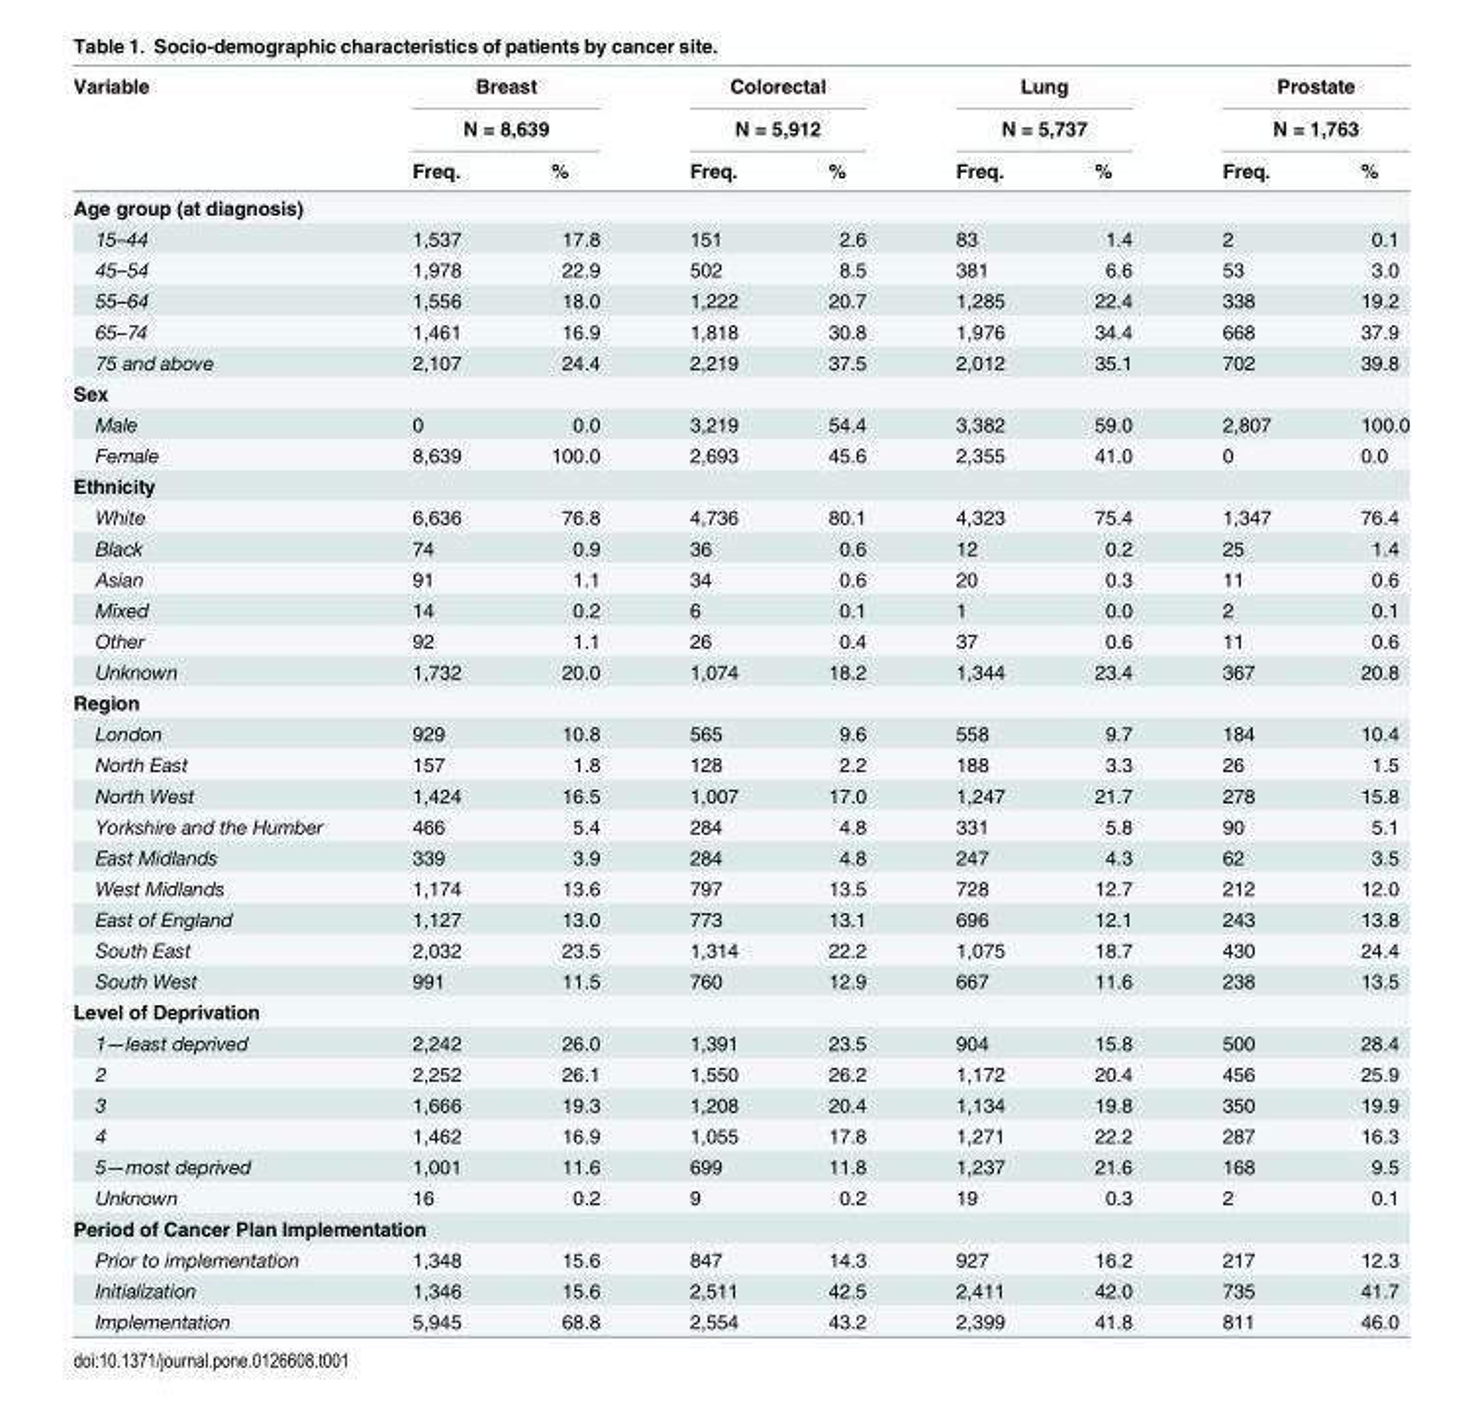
<table><thead><tr><td rowspan="3">Variable</td><td rowspan="2" colspan="2">Breast N = 8,639</td><td rowspan="2" colspan="2">Colorectal N = 5,912</td><td rowspan="2" colspan="2">Lung N = 5,737</td><td rowspan="2" colspan="2">Prostate N = 1,763</td></tr><tr></tr><tr><td>Freq.</td><td>%</td><td>Freq.</td><td>%</td><td>Freq.</td><td>%</td><td>Freq.</td><td>%</td></tr></thead><tbody><tr><td colspan="9">Age group (at diagnosis)</td></tr><tr><td>15–44</td><td>1,537</td><td>17.8</td><td>151</td><td>2.6</td><td>83</td><td>1.4</td><td>2</td><td>0.1</td></tr><tr><td>45–54</td><td>1,978</td><td>22.9</td><td>502</td><td>8.5</td><td>381</td><td>6.6</td><td>53</td><td>3.0</td></tr><tr><td>55–64</td><td>1,556</td><td>18.0</td><td>1,222</td><td>20.7</td><td>1,285</td><td>22.4</td><td>338</td><td>19.2</td></tr><tr><td>65–74</td><td>1,461</td><td>16.9</td><td>1,818</td><td>30.8</td><td>1,976</td><td>34.4</td><td>668</td><td>37.9</td></tr><tr><td>75 and above</td><td>2,107</td><td>24.4</td><td>2,219</td><td>37.5</td><td>2,012</td><td>35.1</td><td>702</td><td>39.8</td></tr><tr><td colspan="9">Sex</td></tr><tr><td>Male</td><td>0</td><td>0.0</td><td>3,219</td><td>54.4</td><td>3,382</td><td>59.0</td><td>2,807</td><td>100.0</td></tr><tr><td>Female</td><td>8,639</td><td>100.0</td><td>2,693</td><td>45.6</td><td>2,355</td><td>41.0</td><td>0</td><td>0.0</td></tr><tr><td colspan="9">Ethnicity</td></tr><tr><td>White</td><td>6,636</td><td>76.8</td><td>4,736</td><td>80.1</td><td>4,323</td><td>75.4</td><td>1,347</td><td>76.4</td></tr><tr><td>Black</td><td>74</td><td>0.9</td><td>36</td><td>0.6</td><td>12</td><td>0.2</td><td>25</td><td>1.4</td></tr><tr><td>Asian</td><td>91</td><td>1.1</td><td>34</td><td>0.6</td><td>20</td><td>0.3</td><td>11</td><td>0.6</td></tr><tr><td>Mixed</td><td>14</td><td>0.2</td><td>6</td><td>0.1</td><td>1</td><td>0.0</td><td>2</td><td>0.1</td></tr><tr><td>Other</td><td>92</td><td>1.1</td><td>26</td><td>0.4</td><td>37</td><td>0.6</td><td>11</td><td>0.6</td></tr><tr><td>Unknown</td><td>1,732</td><td>20.0</td><td>1,074</td><td>18.2</td><td>1,344</td><td>23.4</td><td>367</td><td>20.8</td></tr><tr><td colspan="9">Region</td></tr><tr><td>London</td><td>929</td><td>10.8</td><td>565</td><td>9.6</td><td>558</td><td>9.7</td><td>184</td><td>10.4</td></tr><tr><td>North East</td><td>157</td><td>1.8</td><td>128</td><td>2.2</td><td>188</td><td>3.3</td><td>26</td><td>1.5</td></tr><tr><td>North West</td><td>1,424</td><td>16.5</td><td>1,007</td><td>17.0</td><td>1,247</td><td>21.7</td><td>278</td><td>15.8</td></tr><tr><td>Yorkshire and the Humber</td><td>466</td><td>5.4</td><td>284</td><td>4.8</td><td>331</td><td>5.8</td><td>90</td><td>5.1</td></tr><tr><td>East Midlands</td><td>339</td><td>3.9</td><td>284</td><td>4.8</td><td>247</td><td>4.3</td><td>62</td><td>3.5</td></tr><tr><td>West Midlands</td><td>1,174</td><td>13.6</td><td>797</td><td>13.5</td><td>728</td><td>12.7</td><td>212</td><td>12.0</td></tr><tr><td>East of England</td><td>1,127</td><td>13.0</td><td>773</td><td>13.1</td><td>696</td><td>12.1</td><td>243</td><td>13.8</td></tr><tr><td>South East</td><td>2,032</td><td>23.5</td><td>1,314</td><td>22.2</td><td>1,075</td><td>18.7</td><td>430</td><td>24.4</td></tr><tr><td>South West</td><td>991</td><td>11.5</td><td>760</td><td>12.9</td><td>667</td><td>11.6</td><td>238</td><td>13.5</td></tr><tr><td colspan="9">Level of Deprivation</td></tr><tr><td>1—least deprived</td><td>2,242</td><td>26.0</td><td>1,391</td><td>23.5</td><td>904</td><td>15.8</td><td>500</td><td>28.4</td></tr><tr><td>2</td><td>2,252</td><td>26.1</td><td>1,550</td><td>26.2</td><td>1,172</td><td>20.4</td><td>456</td><td>25.9</td></tr><tr><td>3</td><td>1,666</td><td>19.3</td><td>1,208</td><td>20.4</td><td>1,134</td><td>19.8</td><td>350</td><td>19.9</td></tr><tr><td>4</td><td>1,462</td><td>16.9</td><td>1,055</td><td>17.8</td><td>1,271</td><td>22.2</td><td>287</td><td>16.3</td></tr><tr><td>5—most deprived</td><td>1,001</td><td>11.6</td><td>699</td><td>11.8</td><td>1,237</td><td>21.6</td><td>168</td><td>9.5</td></tr><tr><td>Unknown</td><td>16</td><td>0.2</td><td>9</td><td>0.2</td><td>19</td><td>0.3</td><td>2</td><td>0.1</td></tr><tr><td colspan="9">Period of Cancer Plan Implementation</td></tr><tr><td>Prior to implementation</td><td>1,348</td><td>15.6</td><td>847</td><td>14.3</td><td>927</td><td>16.2</td><td>217</td><td>12.3</td></tr><tr><td>Initialization</td><td>1,346</td><td>15.6</td><td>2,511</td><td>42.5</td><td>2,411</td><td>42.0</td><td>735</td><td>41.7</td></tr><tr><td>Implementation</td><td>5,945</td><td>68.8</td><td>2,554</td><td>43.2</td><td>2,399</td><td>41.8</td><td>811</td><td>46.0</td></tr></tbody></table>